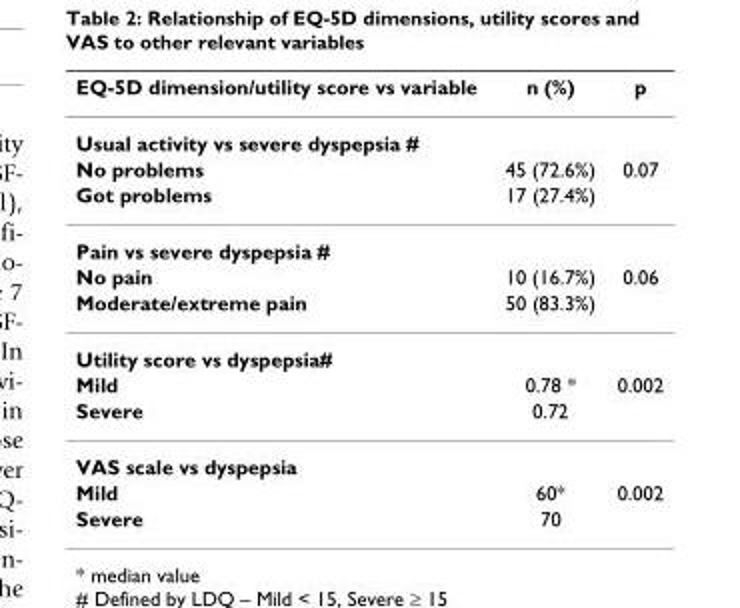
<table><thead><tr><td>EQ-5D dimension/utility score vs variable</td><td>n (%)</td><td>p</td></tr></thead><tbody><tr><td colspan="3">Usual activity vs severe dyspepsia #</td></tr><tr><td>No problems</td><td>45 (72.6%)</td><td>0.07</td></tr><tr><td>Got problems</td><td>17 (27.4%)</td><td></td></tr><tr><td colspan="3">Pain vs severe dyspepsia #</td></tr><tr><td>No pain</td><td>10 (16.7%)</td><td>0.06</td></tr><tr><td>Moderate/extreme pain</td><td>50 (83.3%)</td><td></td></tr><tr><td colspan="3">Utility score vs dyspepsia#</td></tr><tr><td>Mild</td><td>0.78 *</td><td>0.002</td></tr><tr><td>Severe</td><td>0.72</td><td></td></tr><tr><td colspan="3">VAS scale vs dyspepsia</td></tr><tr><td>Mild</td><td>60*</td><td>0.002</td></tr><tr><td>Severe</td><td>70</td><td></td></tr></tbody></table>